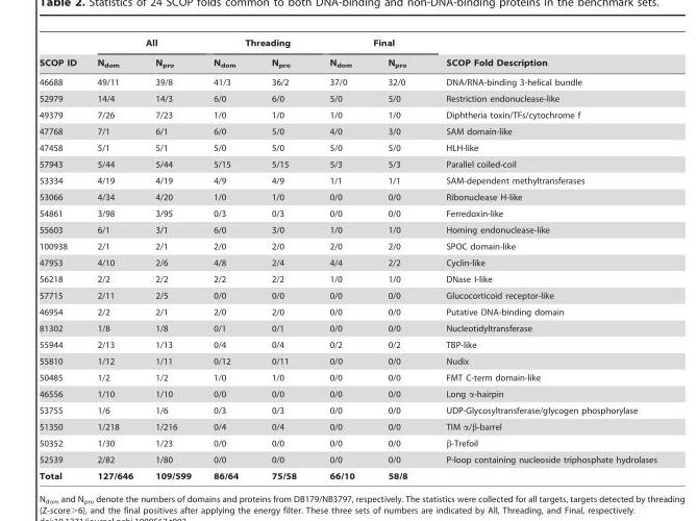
<table><thead><tr><td rowspan="2">SCOP ID</td><td colspan="2">All</td><td colspan="2">Threading</td><td colspan="2">Final</td><td rowspan="2">SCOP Fold Description</td></tr><tr><td>N<sub>dom</sub></td><td>N<sub>pro</sub></td><td>N<sub>dom</sub></td><td>N<sub>pro</sub></td><td>N<sub>dom</sub></td><td>N<sub>pro</sub></td></tr></thead><tbody><tr><td>46688</td><td>49/11</td><td>39/8</td><td>41/3</td><td>36/2</td><td>37/0</td><td>32/0</td><td>DNA/RNA-binding 3-helical bundle</td></tr><tr><td>52979</td><td>14/4</td><td>14/3</td><td>6/0</td><td>6/0</td><td>5/0</td><td>5/0</td><td>Restriction endonuclease-like</td></tr><tr><td>49379</td><td>7/26</td><td>7/23</td><td>1/0</td><td>1/0</td><td>1/0</td><td>1/0</td><td>Diphtheria toxin/TFs/cytochrome f</td></tr><tr><td>47768</td><td>7/1</td><td>6/1</td><td>6/0</td><td>5/0</td><td>4/0</td><td>3/0</td><td>SAM domain-like</td></tr><tr><td>47458</td><td>5/1</td><td>5/1</td><td>5/0</td><td>5/0</td><td>5/0</td><td>5/0</td><td>HLH-like</td></tr><tr><td>57943</td><td>5/44</td><td>5/44</td><td>5/15</td><td>5/15</td><td>5/3</td><td>5/3</td><td>Parallel coiled-coil</td></tr><tr><td>53334</td><td>4/19</td><td>4/19</td><td>4/9</td><td>4/9</td><td>1/1</td><td>1/1</td><td>SAM-dependent methyltransferases</td></tr><tr><td>53066</td><td>4/34</td><td>4/20</td><td>1/0</td><td>1/0</td><td>0/0</td><td>0/0</td><td>Ribonuclease H-like</td></tr><tr><td>54861</td><td>3/98</td><td>3/95</td><td>0/3</td><td>0/3</td><td>0/0</td><td>0/0</td><td>Ferredoxin-like</td></tr><tr><td>55603</td><td>6/1</td><td>3/1</td><td>6/0</td><td>3/0</td><td>1/0</td><td>1/0</td><td>Homing endonuclease-like</td></tr><tr><td>100938</td><td>2/1</td><td>2/1</td><td>2/0</td><td>2/0</td><td>2/0</td><td>2/0</td><td>SPOC domain-like</td></tr><tr><td>47953</td><td>4/10</td><td>2/6</td><td>4/8</td><td>2/4</td><td>4/4</td><td>2/2</td><td>Cyclin-like</td></tr><tr><td>56218</td><td>2/2</td><td>2/2</td><td>2/2</td><td>2/2</td><td>1/0</td><td>1/0</td><td>DNase I-like</td></tr><tr><td>57715</td><td>2/11</td><td>2/5</td><td>0/0</td><td>0/0</td><td>0/0</td><td>0/0</td><td>Glucocorticoid receptor-like</td></tr><tr><td>46954</td><td>2/2</td><td>2/1</td><td>2/0</td><td>2/0</td><td>0/0</td><td>0/0</td><td>Putative DNA-binding domain</td></tr><tr><td>81302</td><td>1/8</td><td>1/8</td><td>0/1</td><td>0/1</td><td>0/0</td><td>0/0</td><td>Nucleotidyltransferase</td></tr><tr><td>55944</td><td>2/13</td><td>1/13</td><td>0/4</td><td>0/4</td><td>0/2</td><td>0/2</td><td>TBP-like</td></tr><tr><td>55810</td><td>1/12</td><td>1/11</td><td>0/12</td><td>0/11</td><td>0/0</td><td>0/0</td><td>Nudix</td></tr><tr><td>50485</td><td>1/2</td><td>1/2</td><td>1/0</td><td>1/0</td><td>0/0</td><td>0/0</td><td>FMT C-term domain-like</td></tr><tr><td>46556</td><td>1/10</td><td>1/10</td><td>0/0</td><td>0/0</td><td>0/0</td><td>0/0</td><td>Long α-hairpin</td></tr><tr><td>53755</td><td>1/6</td><td>1/6</td><td>0/3</td><td>0/3</td><td>0/0</td><td>0/0</td><td>UDP-Glycosyltransferase/glycogen phosphorylase</td></tr><tr><td>51350</td><td>1/218</td><td>1/216</td><td>0/4</td><td>0/4</td><td>0/0</td><td>0/0</td><td>TIM α/β-barrel</td></tr><tr><td>50352</td><td>1/30</td><td>1/23</td><td>0/0</td><td>0/0</td><td>0/0</td><td>0/0</td><td>β-Trefoil</td></tr><tr><td>52539</td><td>2/82</td><td>1/80</td><td>0/0</td><td>0/0</td><td>0/0</td><td>0/0</td><td>P-loop containing nucleoside triphosphate hydrolases</td></tr><tr><td>Total</td><td>127/646</td><td>109/599</td><td>86/64</td><td>75/58</td><td>66/10</td><td>58/8</td><td></td></tr></tbody></table>